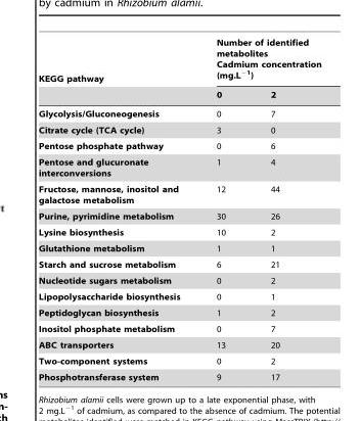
<table><thead><tr><td rowspan="2">KEGG pathway</td><td colspan="2">Number of identified metabolites Cadmium concentration (mg.L<sup>−1</sup>)</td></tr><tr><td>0</td><td>2</td></tr></thead><tbody><tr><td>Glycolysis/Gluconeogenesis</td><td>0</td><td>7</td></tr><tr><td>Citrate cycle (TCA cycle)</td><td>3</td><td>0</td></tr><tr><td>Pentose phosphate pathway</td><td>0</td><td>6</td></tr><tr><td>Pentose and glucuronate interconversions</td><td>1</td><td>4</td></tr><tr><td>Fructose, mannose, inositol and galactose metabolism</td><td>12</td><td>44</td></tr><tr><td>Purine, pyrimidine metabolism</td><td>30</td><td>26</td></tr><tr><td>Lysine biosynthesis</td><td>10</td><td>2</td></tr><tr><td>Glutathione metabolism</td><td>1</td><td>1</td></tr><tr><td>Starch and sucrose metabolism</td><td>6</td><td>21</td></tr><tr><td>Nucleotide sugars metabolism</td><td>0</td><td>2</td></tr><tr><td>Lipopolysaccharide biosynthesis</td><td>0</td><td>1</td></tr><tr><td>Peptidoglycan biosynthesis</td><td>1</td><td>2</td></tr><tr><td>Inositol phosphate metabolism</td><td>0</td><td>7</td></tr><tr><td>ABC transporters</td><td>13</td><td>20</td></tr><tr><td>Two-component systems</td><td>0</td><td>2</td></tr><tr><td>Phosphotransferase system</td><td>9</td><td>17</td></tr></tbody></table>